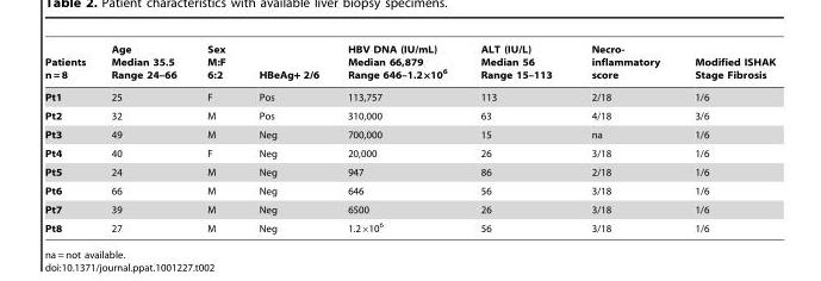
<table><thead><tr><td>Patients n = 8</td><td>Age Median 35.5 Range 24–66</td><td>Sex M:F 6:2</td><td>HBeAg+ 2/6</td><td>HBV DNA (IU/mL) Median 66,879 Range 646–1.2×10<sup>6</sup></td><td>ALT (IU/L) Median 56 Range 15–113</td><td>Necro- inflammatory score</td><td>Modified ISHAK Stage Fibrosis</td></tr></thead><tbody><tr><td>Pt1</td><td>25</td><td>F</td><td>Pos</td><td>113,757</td><td>113</td><td>2/18</td><td>1/6</td></tr><tr><td>Pt2</td><td>32</td><td>M</td><td>Pos</td><td>310,000</td><td>63</td><td>4/18</td><td>3/6</td></tr><tr><td>Pt3</td><td>49</td><td>M</td><td>Neg</td><td>700,000</td><td>15</td><td>na</td><td>1/6</td></tr><tr><td>Pt4</td><td>40</td><td>F</td><td>Neg</td><td>20,000</td><td>26</td><td>3/18</td><td>1/6</td></tr><tr><td>Pt5</td><td>24</td><td>M</td><td>Neg</td><td>947</td><td>86</td><td>2/18</td><td>1/6</td></tr><tr><td>Pt6</td><td>66</td><td>M</td><td>Neg</td><td>646</td><td>56</td><td>3/18</td><td>1/6</td></tr><tr><td>Pt7</td><td>39</td><td>M</td><td>Neg</td><td>6500</td><td>26</td><td>3/18</td><td>1/6</td></tr><tr><td>Pt8</td><td>27</td><td>M</td><td>Neg</td><td>1.2×10<sup>6</sup></td><td>56</td><td>3/18</td><td>1/6</td></tr></tbody></table>